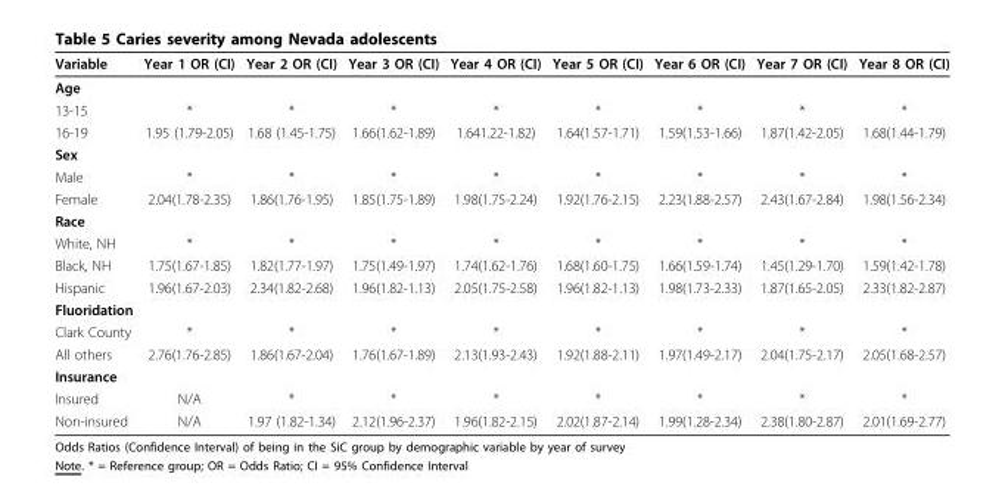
<table><thead><tr><td>Variable</td><td>Year 1 OR (CI)</td><td>Year 2 OR (CI)</td><td>Year 3 OR (CI)</td><td>Year 4 OR (CI)</td><td>Year 5 OR (CI)</td><td>Year 6 OR (CI)</td><td>Year 7 OR (CI)</td><td>Year 8 OR (CI)</td></tr></thead><tbody><tr><td colspan="9">Age</td></tr><tr><td>13-15</td><td>*</td><td>*</td><td>*</td><td>*</td><td>*</td><td>*</td><td>*</td><td>*</td></tr><tr><td>16-19</td><td>1.95 (1.79-2.05)</td><td>1.68 (1.45-1.75)</td><td>1.66(1.62-1.89)</td><td>1.641.22-1.82)</td><td>1.64(1.57-1.71)</td><td>1.59(1.53-1.66)</td><td>1.87(1.42-2.05)</td><td>1.68(1.44-1.79)</td></tr><tr><td colspan="9">Sex</td></tr><tr><td>Male</td><td>*</td><td>*</td><td>*</td><td>*</td><td>*</td><td>*</td><td>*</td><td>*</td></tr><tr><td>Female</td><td>2.04(1.78-2.35)</td><td>1.86(1.76-1.95)</td><td>1.85(1.75-1.89)</td><td>1.98(1.75-2.24)</td><td>1.92(1.76-2.15)</td><td>2.23(1.88-2.57)</td><td>2.43(1.67-2.84)</td><td>1.98(1.56-2.34)</td></tr><tr><td colspan="9">Race</td></tr><tr><td>White, NH</td><td>*</td><td>*</td><td>*</td><td>*</td><td>*</td><td>*</td><td>*</td><td>*</td></tr><tr><td>Black, NH</td><td>1.75(1.67-1.85)</td><td>1.82(1.77-1.97)</td><td>1.75(1.49-1.97)</td><td>1.74(1.62-1.76)</td><td>1.68(1.60-1.75)</td><td>1.66(1.59-1.74)</td><td>1.45(1.29-1.70)</td><td>1.59(1.42-1.78)</td></tr><tr><td>Hispanic</td><td>1.96(1.67-2.03)</td><td>2.34(1.82-2.68)</td><td>1.96(1.82-1.13)</td><td>2.05(1.75-2.58)</td><td>1.96(1.82-1.13)</td><td>1.98(1.73-2.33)</td><td>1.87(1.65-2.05)</td><td>2.33(1.82-2.87)</td></tr><tr><td colspan="9">Fluoridation</td></tr><tr><td>Clark County</td><td>*</td><td>*</td><td>*</td><td>*</td><td>*</td><td>*</td><td>*</td><td>*</td></tr><tr><td>All others</td><td>2.76(1.76-2.85)</td><td>1.86(1.67-2.04)</td><td>1.76(1.67-1.89)</td><td>2.13(1.93-2.43)</td><td>1.92(1.88-2.11)</td><td>1.97(1.49-2.17)</td><td>2.04(1.75-2.17)</td><td>2.05(1.68-2.57)</td></tr><tr><td colspan="9">Insurance</td></tr><tr><td>Insured</td><td>N/A</td><td>*</td><td>*</td><td>*</td><td>*</td><td>*</td><td>*</td><td>*</td></tr><tr><td>Non-insured</td><td>N/A</td><td>1.97 (1.82-1.34)</td><td>2.12(1.96-2.37)</td><td>1.96(1.82-2.15)</td><td>2.02(1.87-2.14)</td><td>1.99(1.28-2.34)</td><td>2.38(1.80-2.87)</td><td>2.01(1.69-2.77)</td></tr></tbody></table>